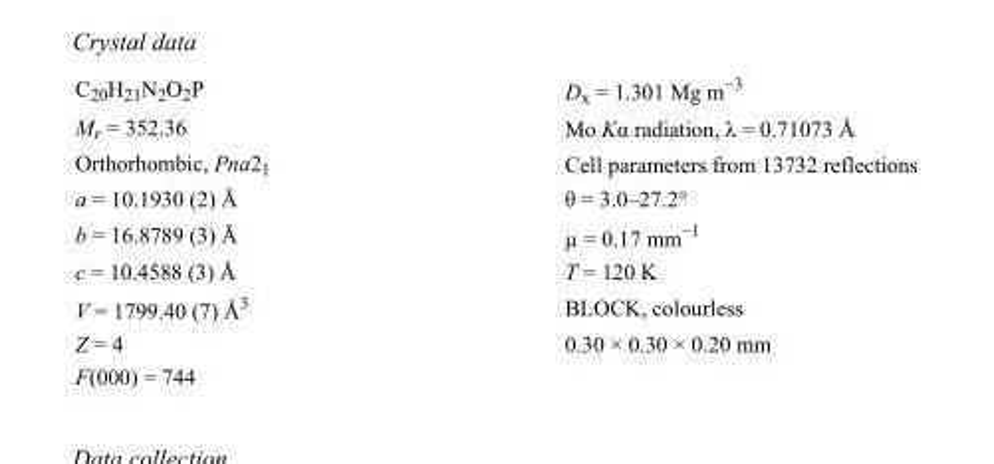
<table><tbody><tr><td>C<sub>20</sub>H<sub>21</sub>N<sub>2</sub>O<sub>2</sub>P</td><td>D<sub>x</sub> = 1.301 Mg m<sup>−3</sup></td></tr><tr><td>M<sub>r</sub> = 352.36</td><td>Mo Kα radiation, λ = 0.71073 Å</td></tr><tr><td>Orthorhombic, Pna2<sub>1</sub></td><td>Cell parameters from 13732 reflections</td></tr><tr><td>a = 10.1930 (2) Å</td><td>θ = 3.0–27.2°</td></tr><tr><td>b = 16.8789 (3) Å</td><td>µ = 0.17 mm<sup>−1</sup></td></tr><tr><td>c = 10.4588 (3) Å</td><td>T = 120 K</td></tr><tr><td>V = 1799.40 (7) Å<sup>3</sup></td><td>BLOCK, colourless</td></tr><tr><td>Z = 4</td><td>0.30 × 0.30 × 0.20 mm</td></tr><tr><td>F(000) = 744</td><td></td></tr></tbody></table>